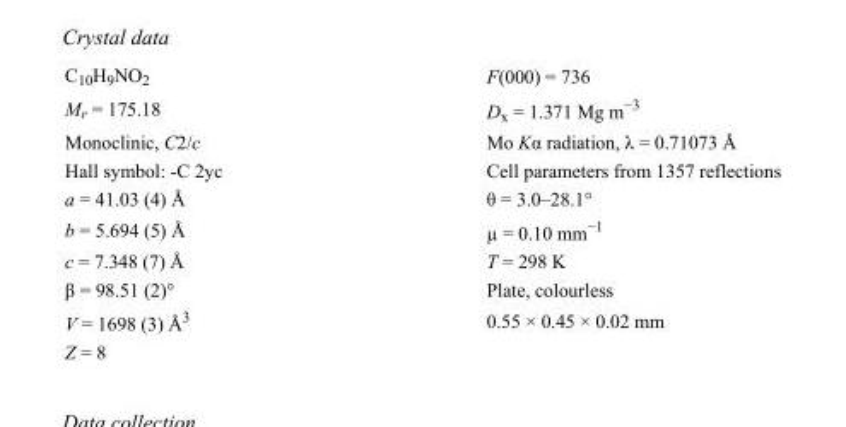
<table><tbody><tr><td>C<sub>10</sub>H<sub>9</sub>NO<sub>2</sub></td><td>F(000) = 736</td></tr><tr><td>M<sub>r</sub> = 175.18</td><td>D<sub>x</sub> = 1.371 Mg m<sup>−3</sup></td></tr><tr><td>Monoclinic, C2/c</td><td>Mo Kα radiation, λ = 0.71073 Å</td></tr><tr><td>Hall symbol: -C 2yc</td><td>Cell parameters from 1357 reflections</td></tr><tr><td>a = 41.03 (4) Å</td><td>θ = 3.0–28.1°</td></tr><tr><td>b = 5.694 (5) Å</td><td>µ = 0.10 mm<sup>−1</sup></td></tr><tr><td>c = 7.348 (7) Å</td><td>T = 298 K</td></tr><tr><td>β = 98.51 (2)°</td><td>Plate, colourless</td></tr><tr><td>V = 1698 (3) Å<sup>3</sup></td><td>0.55 × 0.45 × 0.02 mm</td></tr><tr><td>Z = 8</td><td></td></tr></tbody></table>